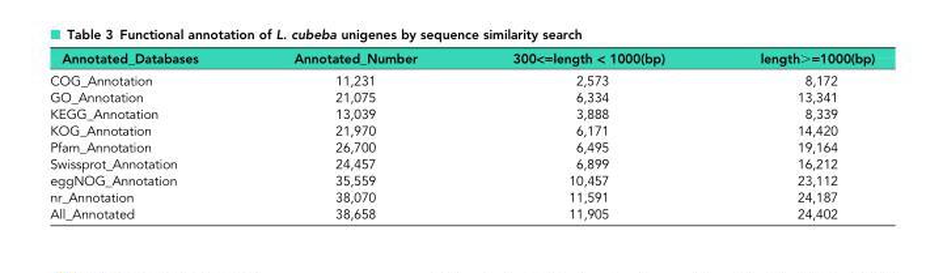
<table><thead><tr><td>Annotated_Databases</td><td>Annotated_Number</td><td>300&lt;=length &lt; 1000(bp)</td><td>length&gt;=1000(bp)</td></tr></thead><tbody><tr><td>COG_Annotation</td><td>11,231</td><td>2,573</td><td>8,172</td></tr><tr><td>GO_Annotation</td><td>21,075</td><td>6,334</td><td>13,341</td></tr><tr><td>KEGG_Annotation</td><td>13,039</td><td>3,888</td><td>8,339</td></tr><tr><td>KOG_Annotation</td><td>21,970</td><td>6,171</td><td>14,420</td></tr><tr><td>Pfam_Annotation</td><td>26,700</td><td>6,495</td><td>19,164</td></tr><tr><td>Swissprot_Annotation</td><td>24,457</td><td>6,899</td><td>16,212</td></tr><tr><td>eggNOG_Annotation</td><td>35,559</td><td>10,457</td><td>23,112</td></tr><tr><td>nr_Annotation</td><td>38,070</td><td>11,591</td><td>24,187</td></tr><tr><td>All_Annotated</td><td>38,658</td><td>11,905</td><td>24,402</td></tr></tbody></table>